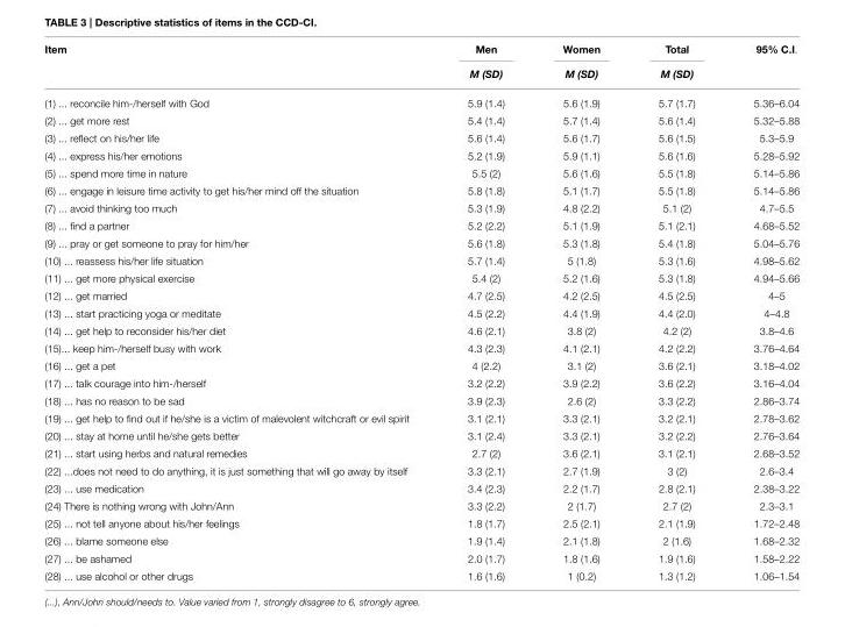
<table><thead><tr><td rowspan="2">Item</td><td rowspan="2">Men M (SD)</td><td rowspan="2">Women M (SD)</td><td rowspan="2">Total M (SD)</td><td rowspan="2">95% C.I.</td></tr><tr></tr></thead><tbody><tr><td>(1) ... reconcile him-/herself with God</td><td>5.9 (1.4)</td><td>5.6 (1.9)</td><td>5.7 (1.7)</td><td>5.36–6.04</td></tr><tr><td>(2) ... get more rest</td><td>5.4 (1.4)</td><td>5.7 (1.4)</td><td>5.6 (1.4)</td><td>5.32–5.88</td></tr><tr><td>(3) ... reflect on his/her life</td><td>5.6 (1.4)</td><td>5.6 (1.7)</td><td>5.6 (1.5)</td><td>5.3–5.9</td></tr><tr><td>(4) ... express his/her emotions</td><td>5.2 (1.9)</td><td>5.9 (1.1)</td><td>5.6 (1.6)</td><td>5.28–5.92</td></tr><tr><td>(5) ... spend more time in nature</td><td>5.5 (2)</td><td>5.6 (1.6)</td><td>5.5 (1.8)</td><td>5.14–5.86</td></tr><tr><td>(6) ... engage in leisure time activity to get his/her mind off the situation</td><td>5.8 (1.8)</td><td>5.1 (1.7)</td><td>5.5 (1.8)</td><td>5.14–5.86</td></tr><tr><td>(7) ... avoid thinking too much</td><td>5.3 (1.9)</td><td>4.8 (2.2)</td><td>5.1 (2)</td><td>4.7–5.5</td></tr><tr><td>(8) ... find a partner</td><td>5.2 (2.2)</td><td>5.1 (1.9)</td><td>5.1 (2.1)</td><td>4.68–5.52</td></tr><tr><td>(9) ... pray or get someone to pray for him/her</td><td>5.6 (1.8)</td><td>5.3 (1.8)</td><td>5.4 (1.8)</td><td>5.04–5.76</td></tr><tr><td>(10) ... reassess his/her life situation</td><td>5.7 (1.4)</td><td>5 (1.8)</td><td>5.3 (1.6)</td><td>4.98–5.62</td></tr><tr><td>(11) ... get more physical exercise</td><td>5.4 (2)</td><td>5.2 (1.6)</td><td>5.3 (1.8)</td><td>4.94–5.66</td></tr><tr><td>(12) ... get married</td><td>4.7 (2.5)</td><td>4.2 (2.5)</td><td>4.5 (2.5)</td><td>4–5</td></tr><tr><td>(13) ... start practicing yoga or meditate</td><td>4.5 (2.2)</td><td>4.4 (1.9)</td><td>4.4 (2.0)</td><td>4–4.8</td></tr><tr><td>(14) ... get help to reconsider his/her diet</td><td>4.6 (2.1)</td><td>3.8 (2)</td><td>4.2 (2)</td><td>3.8–4.6</td></tr><tr><td>(15)... keep him-/herself busy with work</td><td>4.3 (2.3)</td><td>4.1 (2.1)</td><td>4.2 (2.2)</td><td>3.76–4.64</td></tr><tr><td>(16) ... get a pet</td><td>4 (2.2)</td><td>3.1 (2)</td><td>3.6 (2.1)</td><td>3.18–4.02</td></tr><tr><td>(17) ... talk courage into him-/herself</td><td>3.2 (2.2)</td><td>3.9 (2.2)</td><td>3.6 (2.2)</td><td>3.16–4.04</td></tr><tr><td>(18) ... has no reason to be sad</td><td>3.9 (2.3)</td><td>2.6 (2)</td><td>3.3 (2.2)</td><td>2.86–3.74</td></tr><tr><td>(19) ... get help to find out if he/she is a victim of malevolent witchcraft or evil spirit</td><td>3.1 (2.1)</td><td>3.3 (2.1)</td><td>3.2 (2.1)</td><td>2.78–3.62</td></tr><tr><td>(20) ... stay at home until he/she gets better</td><td>3.1 (2.4)</td><td>3.3 (2.1)</td><td>3.2 (2.2)</td><td>2.76–3.64</td></tr><tr><td>(21) ... start using herbs and natural remedies</td><td>2.7 (2)</td><td>3.6 (2.1)</td><td>3.1 (2.1)</td><td>2.68–3.52</td></tr><tr><td>(22) ...does not need to do anything, it is just something that will go away by itself</td><td>3.3 (2.1)</td><td>2.7 (1.9)</td><td>3 (2)</td><td>2.6–3.4</td></tr><tr><td>(23) ... use medication</td><td>3.4 (2.3)</td><td>2.2 (1.7)</td><td>2.8 (2.1)</td><td>2.38–3.22</td></tr><tr><td>(24) There is nothing wrong with John/Ann</td><td>3.3 (2.2)</td><td>2 (1.7)</td><td>2.7 (2)</td><td>2.3–3.1</td></tr><tr><td>(25) ... not tell anyone about his/her feelings</td><td>1.8 (1.7)</td><td>2.5 (2.1)</td><td>2.1 (1.9)</td><td>1.72–2.48</td></tr><tr><td>(26) ... blame someone else</td><td>1.9 (1.4)</td><td>2.1 (1.8)</td><td>2 (1.6)</td><td>1.68–2.32</td></tr><tr><td>(27) ... be ashamed</td><td>2.0 (1.7)</td><td>1.8 (1.6)</td><td>1.9 (1.6)</td><td>1.58–2.22</td></tr><tr><td>(28) ... use alcohol or other drugs</td><td>1.6 (1.6)</td><td>1 (0.2)</td><td>1.3 (1.2)</td><td>1.06–1.54</td></tr></tbody></table>